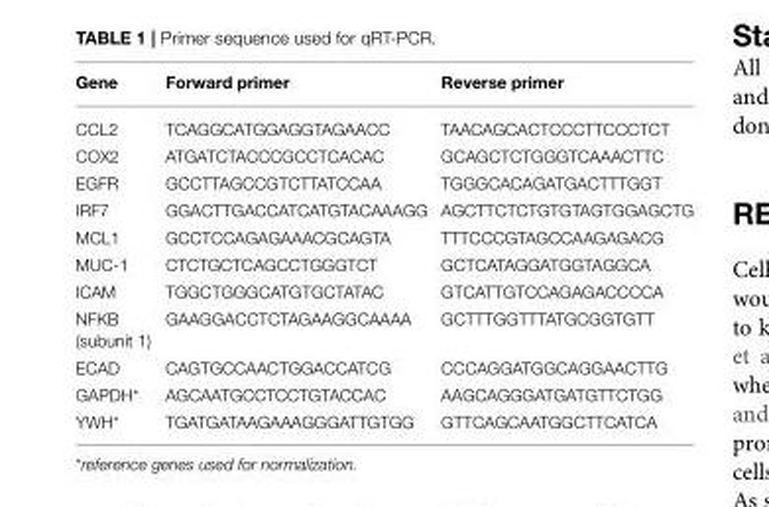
<table><thead><tr><td>Gene</td><td>Forward primer</td><td>Reverse primer</td></tr></thead><tbody><tr><td>CCL2</td><td>TCAGGCATGGAGGTAGAACC</td><td>TAACAGCACTCCCTTCCCTCT</td></tr><tr><td>COX2</td><td>ATGATCTACCCGCCTCACAC</td><td>GCAGCTCTGGGTCAAACTTC</td></tr><tr><td>EGFR</td><td>GCCTTAGCCGTCTTATCCAA</td><td>TGGGCACAGATGACTTTGGT</td></tr><tr><td>IRF7</td><td>GGACTTGACCATCATGTACAAAGG</td><td>AGCTTCTCTGTGTAGTGGAGCTG</td></tr><tr><td>MCL1</td><td>GCCTCCAGAGAAACGCAGTA</td><td>TTTCCCGTAGCCAAGAGACG</td></tr><tr><td>MUC-1</td><td>CTCTGCTCAGCCTGGGTCT</td><td>GCTCATAGGATGGTAGGCA</td></tr><tr><td>ICAM</td><td>TGGCTGGGCATGTGCTATAC</td><td>GTCATTGTCCAGAGACCCCA</td></tr><tr><td>NFKB (subunit 1)</td><td>GAAGGACCTCTAGAAGGCAAAA</td><td>GCTTTGGTTTATGCGGTGTT</td></tr><tr><td>ECAD</td><td>CAGTGCCAACTGGACCATCG</td><td>CCCAGGATGGCAGGAACTTG</td></tr><tr><td>GAPDH*</td><td>AGCAATGCCTCCTGTACCAC</td><td>AAGCAGGGATGATGTTCTGG</td></tr><tr><td>YWH*</td><td>TGATGATAAGAAAGGGATTGTGG</td><td>GTTCAGCAATGGCTTCATCA</td></tr></tbody></table>